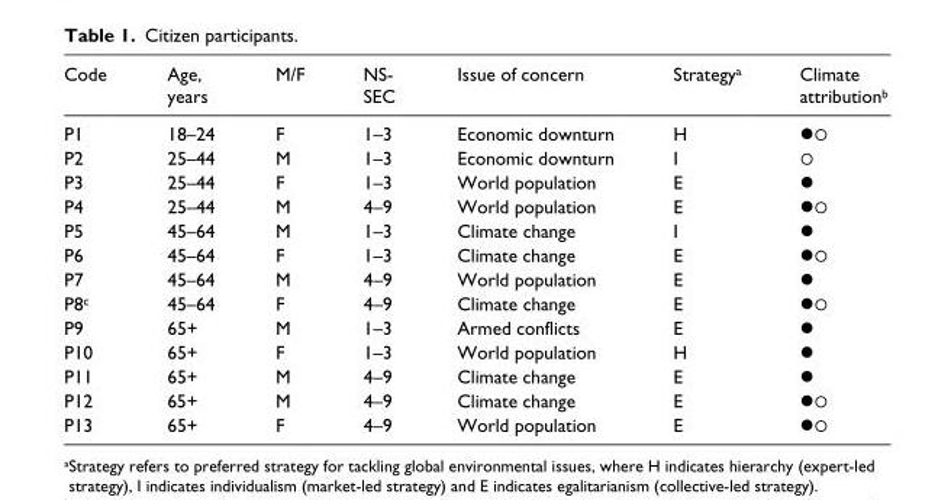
<table><thead><tr><td>Code</td><td>Age, years</td><td>M/F</td><td>NS- SEC</td><td>Issue of concern</td><td>Strategy<sup>a</sup></td><td>Climate attribution<sup>b</sup></td></tr></thead><tbody><tr><td>P1</td><td>18–24</td><td>F</td><td>1–3</td><td>Economic downturn</td><td>H</td><td>●○</td></tr><tr><td>P2</td><td>25–44</td><td>M</td><td>1–3</td><td>Economic downturn</td><td>I</td><td>○</td></tr><tr><td>P3</td><td>25–44</td><td>F</td><td>1–3</td><td>World population</td><td>E</td><td>●</td></tr><tr><td>P4</td><td>25–44</td><td>M</td><td>4–9</td><td>World population</td><td>E</td><td>●○</td></tr><tr><td>P5</td><td>45–64</td><td>M</td><td>1–3</td><td>Climate change</td><td>I</td><td>●</td></tr><tr><td>P6</td><td>45–64</td><td>F</td><td>1–3</td><td>Climate change</td><td>E</td><td>●○</td></tr><tr><td>P7</td><td>45–64</td><td>M</td><td>4–9</td><td>World population</td><td>E</td><td>●</td></tr><tr><td>P8<sup>c</sup></td><td>45–64</td><td>F</td><td>4–9</td><td>Climate change</td><td>E</td><td>●○</td></tr><tr><td>P9</td><td>65+</td><td>M</td><td>1–3</td><td>Armed conflicts</td><td>E</td><td>●</td></tr><tr><td>P10</td><td>65+</td><td>F</td><td>1–3</td><td>World population</td><td>H</td><td>●</td></tr><tr><td>P11</td><td>65+</td><td>M</td><td>4–9</td><td>Climate change</td><td>E</td><td>●</td></tr><tr><td>P12</td><td>65+</td><td>M</td><td>4–9</td><td>Climate change</td><td>E</td><td>●○</td></tr><tr><td>P13</td><td>65+</td><td>F</td><td>4–9</td><td>World population</td><td>E</td><td>●○</td></tr></tbody></table>